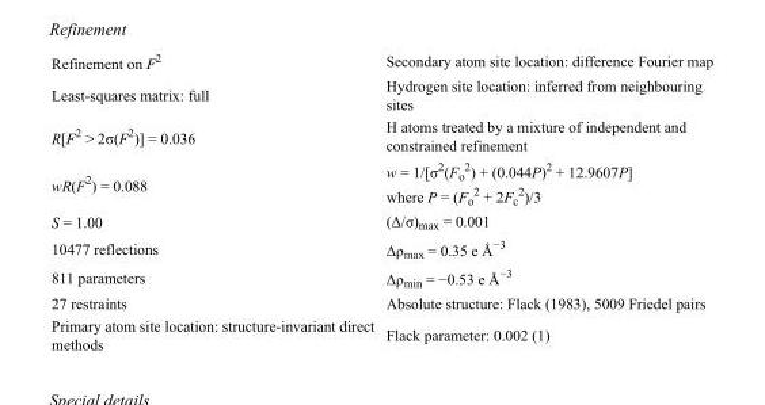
<table><tbody><tr><td>Refinement on F<sup>2</sup></td><td>Secondary atom site location: difference Fourier map</td></tr><tr><td>Least-squares matrix: full</td><td>Hydrogen site location: inferred from neighbouring sites</td></tr><tr><td>R[F<sup>2</sup> &gt; 2σ(F<sup>2</sup>)] = 0.036</td><td>H atoms treated by a mixture of independent and constrained refinement</td></tr><tr><td>wR(F<sup>2</sup>) = 0.088</td><td>w = 1/[σ<sup>2</sup>(F<sub>o</sub> <sup>2</sup>) + (0.044P)<sup>2</sup> + 12.9607P] where P = (F<sub>o</sub> <sup>2</sup> + 2F<sub>c</sub> <sup>2</sup>)/3</td></tr><tr><td>S = 1.00</td><td>(Δ/σ)<sub>max</sub> = 0.001</td></tr><tr><td>10477 reflections</td><td>Δρ<sub>max</sub> = 0.35 e Å<sup>−3</sup></td></tr><tr><td>811 parameters</td><td>Δρ<sub>min</sub> = −0.53 e Å<sup>−3</sup></td></tr><tr><td>27 restraints</td><td>Absolute structure: Flack (1983), 5009 Friedel pairs</td></tr><tr><td>Primary atom site location: structure-invariant direct methods</td><td>Flack parameter: 0.002 (1)</td></tr></tbody></table>